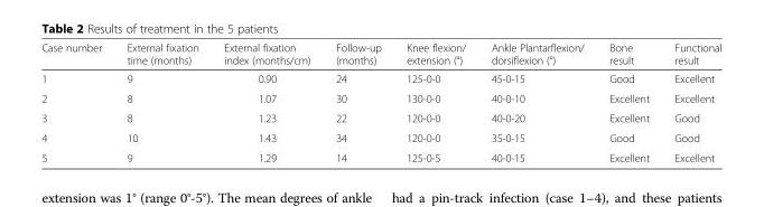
<table><thead><tr><td>Case number</td><td>External fixation time (months)</td><td>External fixation index (months/cm)</td><td>Follow-up (months)</td><td>Knee flexion/ extension (°)</td><td>Ankle Plantarflexion/ dorsiflexion (°)</td><td>Bone result</td><td>Functional result</td></tr></thead><tbody><tr><td>1</td><td>9</td><td>0.90</td><td>24</td><td>125-0-0</td><td>45-0-15</td><td>Good</td><td>Excellent</td></tr><tr><td>2</td><td>8</td><td>1.07</td><td>30</td><td>130-0-0</td><td>40-0-10</td><td>Excellent</td><td>Excellent</td></tr><tr><td>3</td><td>8</td><td>1.23</td><td>22</td><td>120-0-0</td><td>40-0-20</td><td>Excellent</td><td>Good</td></tr><tr><td>4</td><td>10</td><td>1.43</td><td>34</td><td>120-0-0</td><td>35-0-15</td><td>Good</td><td>Good</td></tr><tr><td>5</td><td>9</td><td>1.29</td><td>14</td><td>125-0-5</td><td>40-0-15</td><td>Excellent</td><td>Excellent</td></tr></tbody></table>